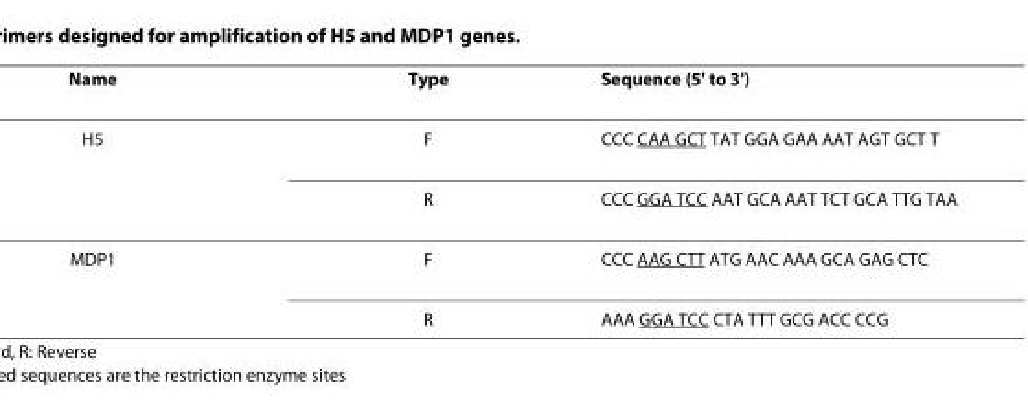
<table><thead><tr><td>Name</td><td>Type</td><td>Sequence (5&#x27; to 3&#x27;)</td></tr></thead><tbody><tr><td rowspan="2">H5</td><td>F</td><td>CCC CAA GCT TAT GGA GAA AAT AGT GCT T</td></tr><tr><td>R</td><td>CCC GGA TCC AAT GCA AAT TCT GCA TTG TAA</td></tr><tr><td rowspan="2">MDP1</td><td>F</td><td>CCC AAG CTT ATG AAC AAA GCA GAG CTC</td></tr><tr><td>R</td><td>AAA GGA TCC CTA TTT GCG ACC CCG</td></tr></tbody></table>